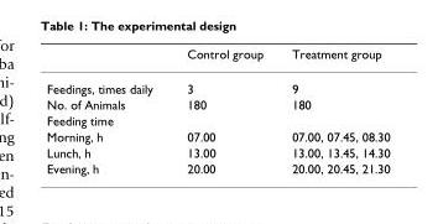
<table><thead><tr><td></td><td>Control group</td><td>Treatment group</td></tr></thead><tbody><tr><td>Feedings, times daily</td><td>3</td><td>9</td></tr><tr><td>No. of Animals</td><td>180</td><td>180</td></tr><tr><td colspan="3">Feeding time</td></tr><tr><td>Morning, h</td><td>07.00</td><td>07.00, 07.45, 08.30</td></tr><tr><td>Lunch, h</td><td>13.00</td><td>13.00, 13.45, 14.30</td></tr><tr><td>Evening, h</td><td>20.00</td><td>20.00, 20.45, 21.30</td></tr></tbody></table>